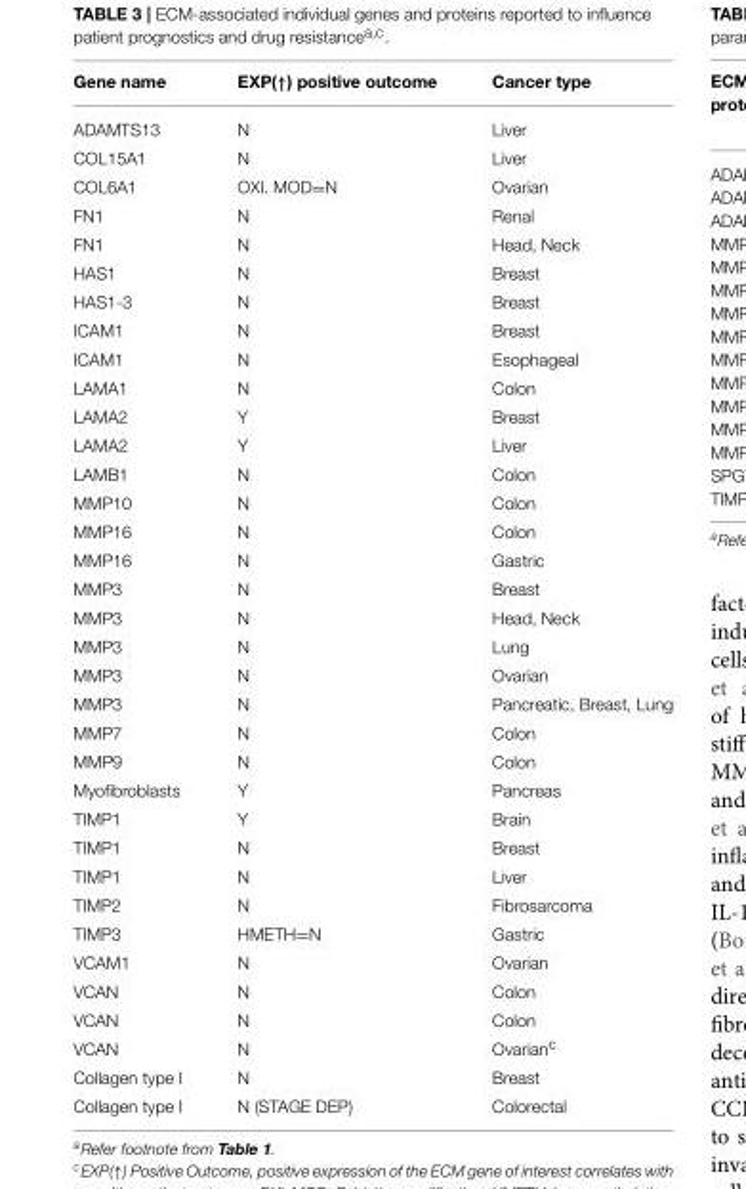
<table><thead><tr><td>Gene name</td><td>EXP(↑) positive outcome</td><td>Cancer type</td></tr></thead><tbody><tr><td>ADAMTS13</td><td>N</td><td>Liver</td></tr><tr><td>COL15A1</td><td>N</td><td>Liver</td></tr><tr><td>COL6A1</td><td>OXI. MOD=N</td><td>Ovarian</td></tr><tr><td>FN1</td><td>N</td><td>Renal</td></tr><tr><td>FN1</td><td>N</td><td>Head, Neck</td></tr><tr><td>HAS1</td><td>N</td><td>Breast</td></tr><tr><td>HAS1-3</td><td>N</td><td>Breast</td></tr><tr><td>ICAM1</td><td>N</td><td>Breast</td></tr><tr><td>ICAM1</td><td>N</td><td>Esophageal</td></tr><tr><td>LAMA1</td><td>N</td><td>Colon</td></tr><tr><td>LAMA2</td><td>Y</td><td>Breast</td></tr><tr><td>LAMA2</td><td>Y</td><td>Liver</td></tr><tr><td>LAMB1</td><td>N</td><td>Colon</td></tr><tr><td>MMP10</td><td>N</td><td>Colon</td></tr><tr><td>MMP16</td><td>N</td><td>Colon</td></tr><tr><td>MMP16</td><td>N</td><td>Gastric</td></tr><tr><td>MMP3</td><td>N</td><td>Breast</td></tr><tr><td>MMP3</td><td>N</td><td>Head, Neck</td></tr><tr><td>MMP3</td><td>N</td><td>Lung</td></tr><tr><td>MMP3</td><td>N</td><td>Ovarian</td></tr><tr><td>MMP3</td><td>N</td><td>Pancreatic, Breast, Lung</td></tr><tr><td>MMP7</td><td>N</td><td>Colon</td></tr><tr><td>MMP9</td><td>N</td><td>Colon</td></tr><tr><td>Myofibroblasts</td><td>Y</td><td>Pancreas</td></tr><tr><td>TIMP1</td><td>Y</td><td>Brain</td></tr><tr><td>TIMP1</td><td>N</td><td>Breast</td></tr><tr><td>TIMP1</td><td>N</td><td>Liver</td></tr><tr><td>TIMP2</td><td>N</td><td>Fibrosarcoma</td></tr><tr><td>TIMP3</td><td>HMETH=N</td><td>Gastric</td></tr><tr><td>VCAM1</td><td>N</td><td>Ovarian</td></tr><tr><td>VCAN</td><td>N</td><td>Colon</td></tr><tr><td>VCAN</td><td>N</td><td>Colon</td></tr><tr><td>VCAN</td><td>N</td><td>Ovarian<sup>c</sup></td></tr><tr><td>Collagen type I</td><td>N</td><td>Breast</td></tr><tr><td>Collagen type I</td><td>N (STAGE DEP)</td><td>Colorectal</td></tr></tbody></table>